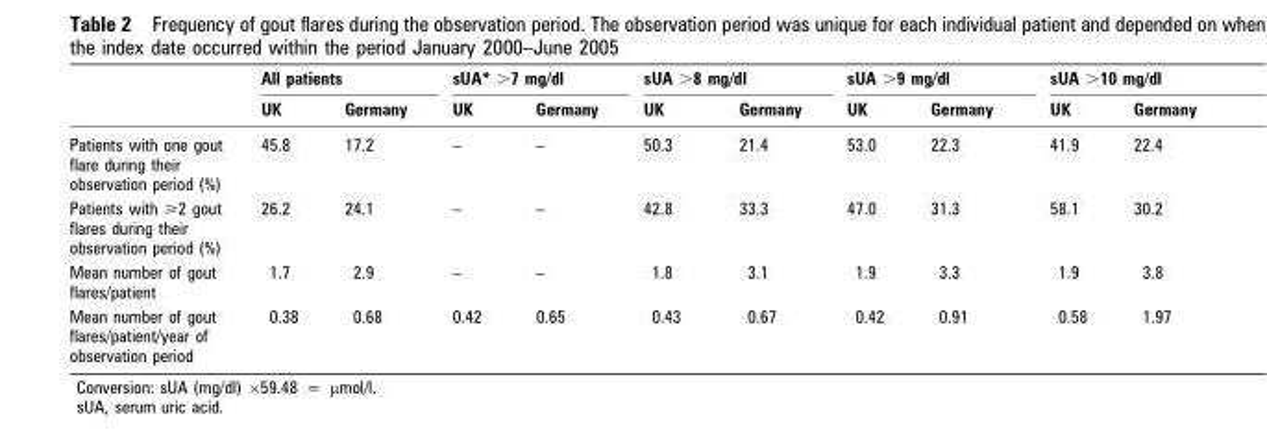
<table><thead><tr><td rowspan="2"></td><td colspan="2">All patients</td><td colspan="2">sUA* &gt;7 mg/dl</td><td colspan="2">sUA &gt;8 mg/dl</td><td colspan="2">sUA &gt;9 mg/dl</td><td colspan="2">sUA &gt;10 mg/dl</td></tr><tr><td>UK</td><td>Germany</td><td>UK</td><td>Germany</td><td>UK</td><td>Germany</td><td>UK</td><td>Germany</td><td>UK</td><td>Germany</td></tr></thead><tbody><tr><td>Patients with one gout flare during their observation period (%)</td><td>45.8</td><td>17.2</td><td>–</td><td>–</td><td>50.3</td><td>21.4</td><td>53.0</td><td>22.3</td><td>41.9</td><td>22.4</td></tr><tr><td>Patients with &gt;2 gout flares during their observation period (%)</td><td>26.2</td><td>24.1</td><td>–</td><td>–</td><td>42.8</td><td>33.3</td><td>47.0</td><td>31.3</td><td>58.1</td><td>30.2</td></tr><tr><td>Mean number of gout flares/patient</td><td>1.7</td><td>2.9</td><td>–</td><td>–</td><td>1.8</td><td>3.1</td><td>1.9</td><td>3.3</td><td>1.9</td><td>3.8</td></tr><tr><td>Mean number of gout flares/patient/year of observation period</td><td>0.38</td><td>0.68</td><td>0.42</td><td>0.65</td><td>0.43</td><td>0.67</td><td>0.42</td><td>0.91</td><td>0.58</td><td>1.97</td></tr></tbody></table>